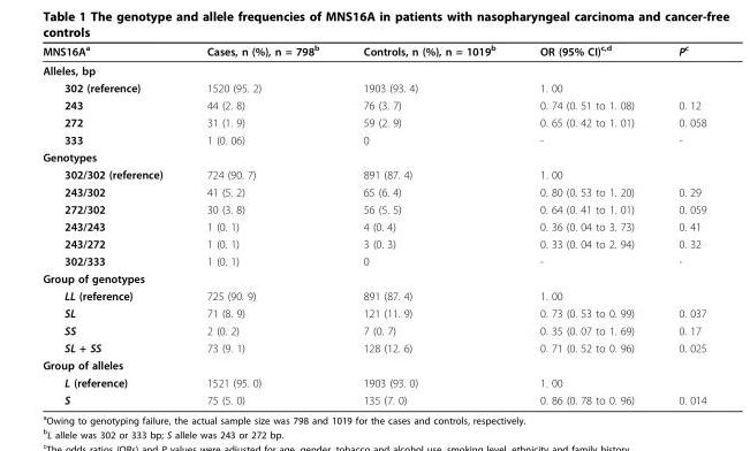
<table><thead><tr><td>MNS16A<sup>a</sup></td><td>Cases, n (%), n = 798<sup>b</sup></td><td>Controls, n (%), n = 1019<sup>b</sup></td><td>OR (95% CI)<sup>c,d</sup></td><td>P<sup>c</sup></td></tr></thead><tbody><tr><td colspan="5">Alleles, bp</td></tr><tr><td>302 (reference)</td><td>1520 (95. 2)</td><td>1903 (93. 4)</td><td>1. 00</td><td></td></tr><tr><td>243</td><td>44 (2. 8)</td><td>76 (3. 7)</td><td>0. 74 (0. 51 to 1. 08)</td><td>0. 12</td></tr><tr><td>272</td><td>31 (1. 9)</td><td>59 (2. 9)</td><td>0. 65 (0. 42 to 1. 01)</td><td>0. 058</td></tr><tr><td>333</td><td>1 (0. 06)</td><td>0</td><td>-</td><td>-</td></tr><tr><td colspan="5">Genotypes</td></tr><tr><td>302/302 (reference)</td><td>724 (90. 7)</td><td>891 (87. 4)</td><td>1. 00</td><td></td></tr><tr><td>243/302</td><td>41 (5. 2)</td><td>65 (6. 4)</td><td>0. 80 (0. 53 to 1. 20)</td><td>0. 29</td></tr><tr><td>272/302</td><td>30 (3. 8)</td><td>56 (5. 5)</td><td>0. 64 (0. 41 to 1. 01)</td><td>0. 059</td></tr><tr><td>243/243</td><td>1 (0. 1)</td><td>4 (0. 4)</td><td>0. 36 (0. 04 to 3. 73)</td><td>0. 41</td></tr><tr><td>243/272</td><td>1 (0. 1)</td><td>3 (0. 3)</td><td>0. 33 (0. 04 to 2. 94)</td><td>0. 32</td></tr><tr><td>302/333</td><td>1 (0. 1)</td><td>0</td><td>-</td><td>-</td></tr><tr><td colspan="5">Group of genotypes</td></tr><tr><td>LL (reference)</td><td>725 (90. 9)</td><td>891 (87. 4)</td><td>1. 00</td><td></td></tr><tr><td>SL</td><td>71 (8. 9)</td><td>121 (11. 9)</td><td>0. 73 (0. 53 to 0. 99)</td><td>0. 037</td></tr><tr><td>SS</td><td>2 (0. 2)</td><td>7 (0. 7)</td><td>0. 35 (0. 07 to 1. 69)</td><td>0. 17</td></tr><tr><td>SL + SS</td><td>73 (9. 1)</td><td>128 (12. 6)</td><td>0. 71 (0. 52 to 0. 96)</td><td>0. 025</td></tr><tr><td colspan="5">Group of alleles</td></tr><tr><td>L (reference)</td><td>1521 (95. 0)</td><td>1903 (93. 0)</td><td>1. 00</td><td></td></tr><tr><td>S</td><td>75 (5. 0)</td><td>135 (7. 0)</td><td>0. 86 (0. 78 to 0. 96)</td><td>0. 014</td></tr></tbody></table>